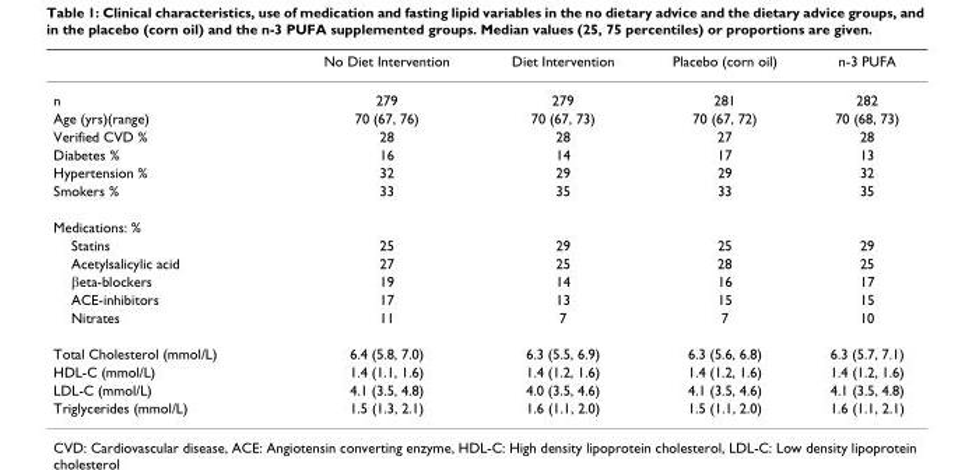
<table><thead><tr><td></td><td>No Diet Intervention</td><td>Diet Intervention</td><td>Placebo (corn oil)</td><td>n-3 PUFA</td></tr></thead><tbody><tr><td>n</td><td>279</td><td>279</td><td>281</td><td>282</td></tr><tr><td>Age (yrs)(range)</td><td>70 (67, 76)</td><td>70 (67, 73)</td><td>70 (67, 72)</td><td>70 (68, 73)</td></tr><tr><td>Verified CVD %</td><td>28</td><td>28</td><td>27</td><td>28</td></tr><tr><td>Diabetes %</td><td>16</td><td>14</td><td>17</td><td>13</td></tr><tr><td>Hypertension %</td><td>32</td><td>29</td><td>29</td><td>32</td></tr><tr><td>Smokers %</td><td>33</td><td>35</td><td>33</td><td>35</td></tr><tr><td colspan="5">Medications: %</td></tr><tr><td>Statins</td><td>25</td><td>29</td><td>25</td><td>29</td></tr><tr><td>Acetylsalicylic acid</td><td>27</td><td>25</td><td>28</td><td>25</td></tr><tr><td>βeta-blockers</td><td>19</td><td>14</td><td>16</td><td>17</td></tr><tr><td>ACE-inhibitors</td><td>17</td><td>13</td><td>15</td><td>15</td></tr><tr><td>Nitrates</td><td>11</td><td>7</td><td>7</td><td>10</td></tr><tr><td>Total Cholesterol (mmol/L)</td><td>6.4 (5.8, 7.0)</td><td>6.3 (5.5, 6.9)</td><td>6.3 (5.6, 6.8)</td><td>6.3 (5.7, 7.1)</td></tr><tr><td>HDL-C (mmol/L)</td><td>1.4 (1.1, 1.6)</td><td>1.4 (1.2, 1.6)</td><td>1.4 (1.2, 1.6)</td><td>1.4 (1.2, 1.6)</td></tr><tr><td>LDL-C (mmol/L)</td><td>4.1 (3.5, 4.8)</td><td>4.0 (3.5, 4.6)</td><td>4.1 (3.5, 4.6)</td><td>4.1 (3.5, 4.8)</td></tr><tr><td>Triglycerides (mmol/L)</td><td>1.5 (1.3, 2.1)</td><td>1.6 (1.1, 2.0)</td><td>1.5 (1.1, 2.0)</td><td>1.6 (1.1, 2.1)</td></tr></tbody></table>